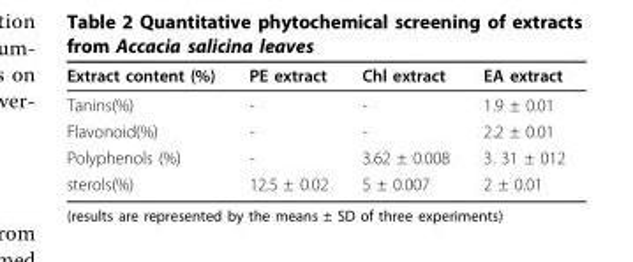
<table><thead><tr><td>Extract content (%)</td><td>PE extract</td><td>Chl extract</td><td>EA extract</td></tr></thead><tbody><tr><td>Tanins(%)</td><td>-</td><td>-</td><td>1.9 ± 0.01</td></tr><tr><td>Flavonoid(%)</td><td>-</td><td>-</td><td>2.2 ± 0.01</td></tr><tr><td>Polyphenols (%)</td><td>-</td><td>3.62 ± 0.008</td><td>3. 31 ± 012</td></tr><tr><td>sterols(%)</td><td>12.5 ± 0.02</td><td>5 ± 0.007</td><td>2 ± 0.01</td></tr></tbody></table>